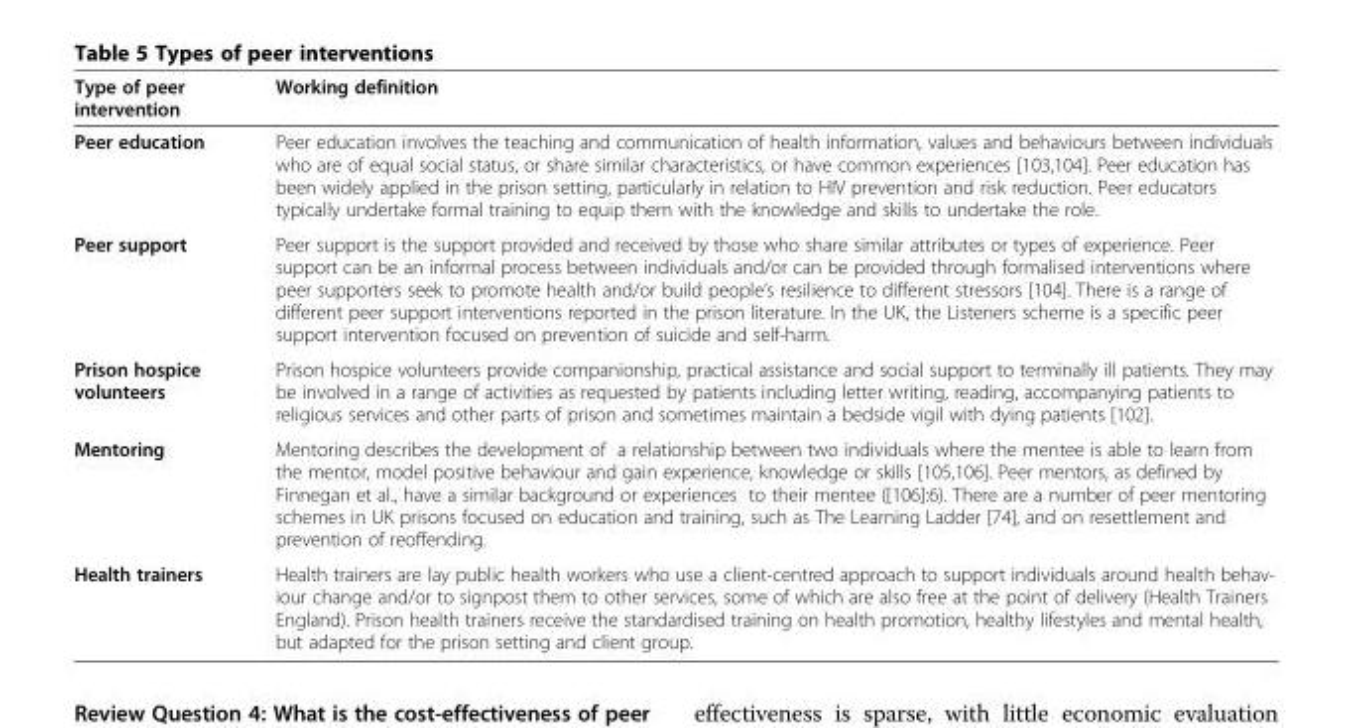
<table><thead><tr><td>Type of peer intervention</td><td>Working definition</td></tr></thead><tbody><tr><td>Peer education</td><td>Peer education involves the teaching and communication of health information, values and behaviours between individuals who are of equal social status, or share similar characteristics, or have common experiences [103,104]. Peer education has been widely applied in the prison setting, particularly in relation to HIV prevention and risk reduction. Peer educators typically undertake formal training to equip them with the knowledge and skills to undertake the role.</td></tr><tr><td>Peer support</td><td>Peer support is the support provided and received by those who share similar attributes or types of experience. Peer support can be an informal process between individuals and/or can be provided through formalised interventions where peer supporters seek to promote health and/or build people’s resilience to different stressors [104]. There is a range of different peer support interventions reported in the prison literature. In the UK, the Listeners scheme is a specific peer support intervention focused on prevention of suicide and self-harm.</td></tr><tr><td>Prison hospice volunteers</td><td>Prison hospice volunteers provide companionship, practical assistance and social support to terminally ill patients. They may be involved in a range of activities as requested by patients including letter writing, reading, accompanying patients to religious services and other parts of prison and sometimes maintain a bedside vigil with dying patients [102].</td></tr><tr><td>Mentoring</td><td>Mentoring describes the development of a relationship between two individuals where the mentee is able to learn from the mentor, model positive behaviour and gain experience, knowledge or skills [105,106]. Peer mentors, as defined by Finnegan et al., have a similar background or experiences to their mentee ([106]:6). There are a number of peer mentoring schemes in UK prisons focused on education and training, such as The Learning Ladder [74], and on resettlement and prevention of reoffending.</td></tr><tr><td>Health trainers</td><td>Health trainers are lay public health workers who use a client-centred approach to support individuals around health behav- iour change and/or to signpost them to other services, some of which are also free at the point of delivery (Health Trainers England). Prison health trainers receive the standardised training on health promotion, healthy lifestyles and mental health, but adapted for the prison setting and client group.</td></tr></tbody></table>